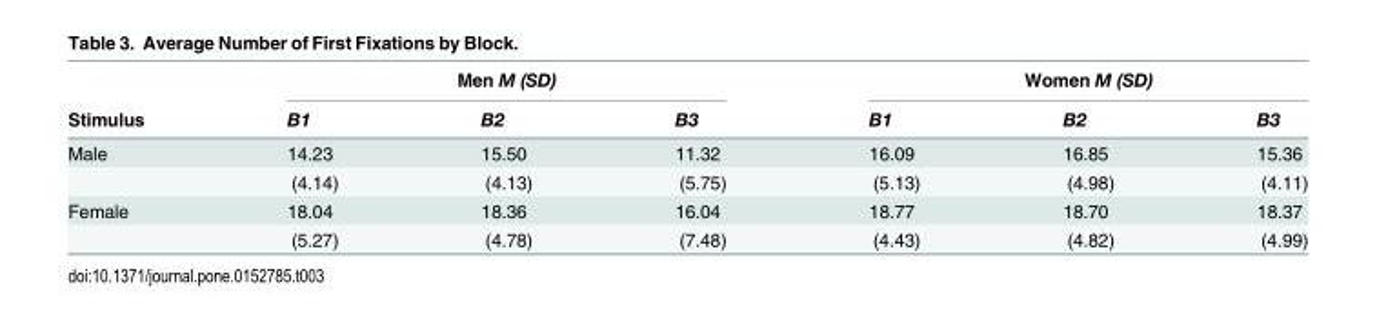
<table><thead><tr><td rowspan="2">Stimulus</td><td colspan="3">Men M (SD)</td><td colspan="3">Women M (SD)</td></tr><tr><td>B1</td><td>B2</td><td>B3</td><td>B1</td><td>B2</td><td>B3</td></tr></thead><tbody><tr><td rowspan="2">Male</td><td>14.23</td><td>15.50</td><td>11.32</td><td>16.09</td><td>16.85</td><td>15.36</td></tr><tr><td>(4.14)</td><td>(4.13)</td><td>(5.75)</td><td>(5.13)</td><td>(4.98)</td><td>(4.11)</td></tr><tr><td rowspan="2">Female</td><td>18.04</td><td>18.36</td><td>16.04</td><td>18.77</td><td>18.70</td><td>18.37</td></tr><tr><td>(5.27)</td><td>(4.78)</td><td>(7.48)</td><td>(4.43)</td><td>(4.82)</td><td>(4.99)</td></tr></tbody></table>